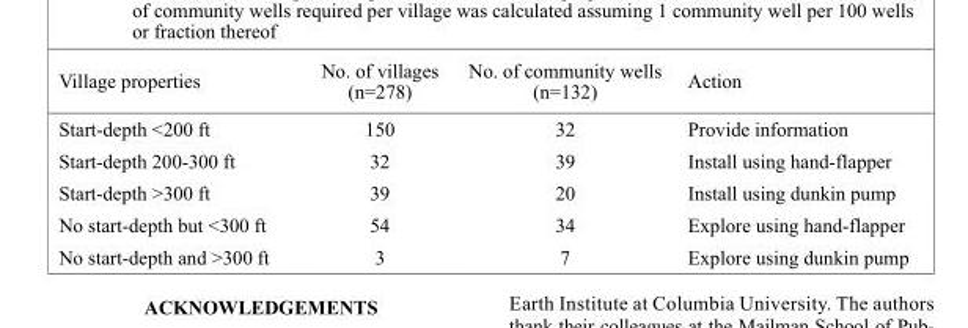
<table><thead><tr><td>Village properties</td><td>No. of villages (n=278)</td><td>No. of community wells (n=132)</td><td>Action</td></tr></thead><tbody><tr><td>Start-depth &lt;200 ft</td><td>150</td><td>32</td><td>Provide information</td></tr><tr><td>Start-depth 200-300 ft</td><td>32</td><td>39</td><td>Install using hand-flapper</td></tr><tr><td>Start-depth &gt;300 ft</td><td>39</td><td>20</td><td>Install using dunkin pump</td></tr><tr><td>No start-depth but &lt;300 ft</td><td>54</td><td>34</td><td>Explore using hand-flapper</td></tr><tr><td>No start-depth and &gt;300 ft</td><td>3</td><td>7</td><td>Explore using dunkin pump</td></tr></tbody></table>